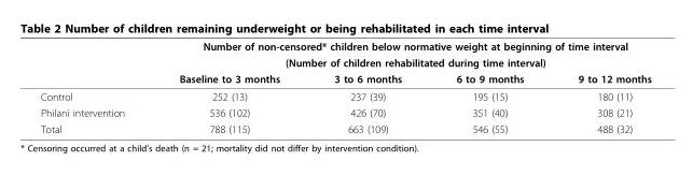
<table><thead><tr><td rowspan="3"></td><td rowspan="2" colspan="4">Number of non-censored* children below normative weight at beginning of time interval (Number of children rehabilitated during time interval)</td></tr><tr></tr><tr><td>Baseline to 3 months</td><td>3 to 6 months</td><td>6 to 9 months</td><td>9 to 12 months</td></tr></thead><tbody><tr><td>Control</td><td>252 (13)</td><td>237 (39)</td><td>195 (15)</td><td>180 (11)</td></tr><tr><td>Philani intervention</td><td>536 (102)</td><td>426 (70)</td><td>351 (40)</td><td>308 (21)</td></tr><tr><td>Total</td><td>788 (115)</td><td>663 (109)</td><td>546 (55)</td><td>488 (32)</td></tr></tbody></table>